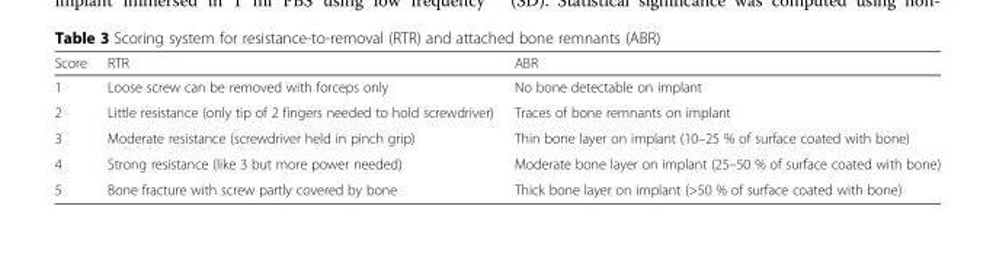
<table><thead><tr><td>Score</td><td>RTR</td><td>ABR</td></tr></thead><tbody><tr><td>1</td><td>Loose screw can be removed with forceps only</td><td>No bone detectable on implant</td></tr><tr><td>2</td><td>Little resistance (only tip of 2 fingers needed to hold screwdriver)</td><td>Traces of bone remnants on implant</td></tr><tr><td>3</td><td>Moderate resistance (screwdriver held in pinch grip)</td><td>Thin bone layer on implant (10–25 % of surface coated with bone)</td></tr><tr><td>4</td><td>Strong resistance (like 3 but more power needed)</td><td>Moderate bone layer on implant (25–50 % of surface coated with bone)</td></tr><tr><td>5</td><td>Bone fracture with screw partly covered by bone</td><td>Thick bone layer on implant (&gt;50 % of surface coated with bone)</td></tr></tbody></table>